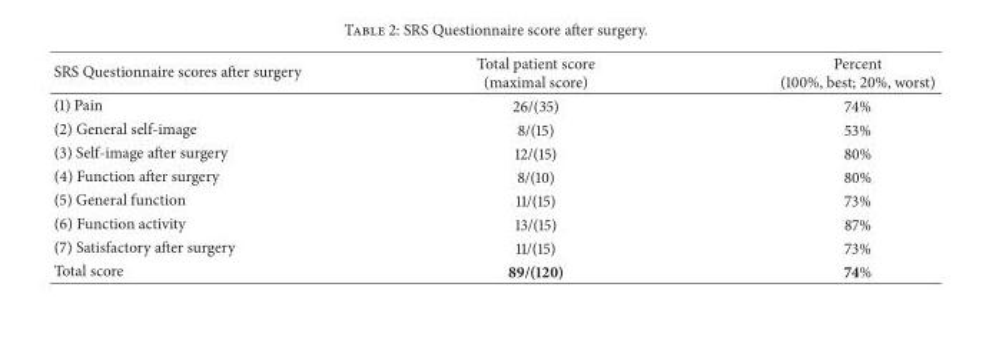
<table><thead><tr><td>SRS Questionnaire scores after surgery</td><td>Total patient score (maximal score)</td><td>Percent (100%, best; 20%, worst)</td></tr></thead><tbody><tr><td>(1) Pain</td><td>26/(35)</td><td>74%</td></tr><tr><td>(2) General self-image</td><td>8/(15)</td><td>53%</td></tr><tr><td>(3) Self-image after surgery</td><td>12/(15)</td><td>80%</td></tr><tr><td>(4) Function after surgery</td><td>8/(10)</td><td>80%</td></tr><tr><td>(5) General function</td><td>11/(15)</td><td>73%</td></tr><tr><td>(6) Function activity</td><td>13/(15)</td><td>87%</td></tr><tr><td>(7) Satisfactory after surgery</td><td>11/(15)</td><td>73%</td></tr><tr><td>Total score</td><td>89/(120)</td><td>74%</td></tr></tbody></table>